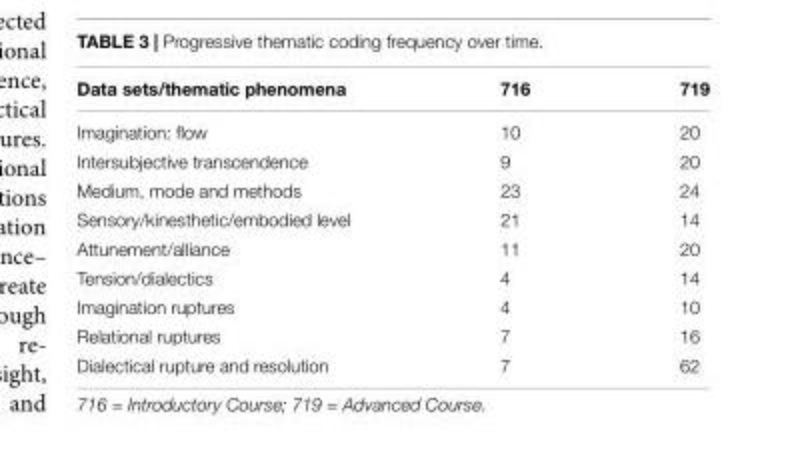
<table><thead><tr><td>Data sets/thematic phenomena</td><td>716</td><td>719</td></tr></thead><tbody><tr><td>Imagination: flow</td><td>10</td><td>20</td></tr><tr><td>Intersubjective transcendence</td><td>9</td><td>20</td></tr><tr><td>Medium, mode and methods</td><td>23</td><td>24</td></tr><tr><td>Sensory/kinesthetic/embodied level</td><td>21</td><td>14</td></tr><tr><td>Attunement/alliance</td><td>11</td><td>20</td></tr><tr><td>Tension/dialectics</td><td>4</td><td>14</td></tr><tr><td>Imagination ruptures</td><td>4</td><td>10</td></tr><tr><td>Relational ruptures</td><td>7</td><td>16</td></tr><tr><td>Dialectical rupture and resolution</td><td>7</td><td>62</td></tr></tbody></table>